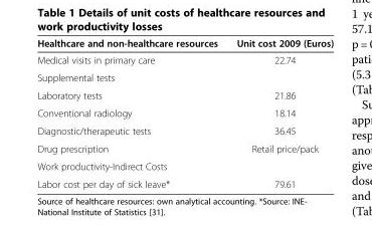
<table><thead><tr><td>Healthcare and non-healthcare resources</td><td>Unit cost 2009 (Euros)</td></tr></thead><tbody><tr><td>Medical visits in primary care</td><td>22.74</td></tr><tr><td colspan="2">Supplemental tests</td></tr><tr><td>Laboratory tests</td><td>21.86</td></tr><tr><td>Conventional radiology</td><td>18.14</td></tr><tr><td>Diagnostic/therapeutic tests</td><td>36.45</td></tr><tr><td>Drug prescription</td><td>Retail price/pack</td></tr><tr><td colspan="2">Work productivity-Indirect Costs</td></tr><tr><td>Labor cost per day of sick leave*</td><td>79.61</td></tr></tbody></table>